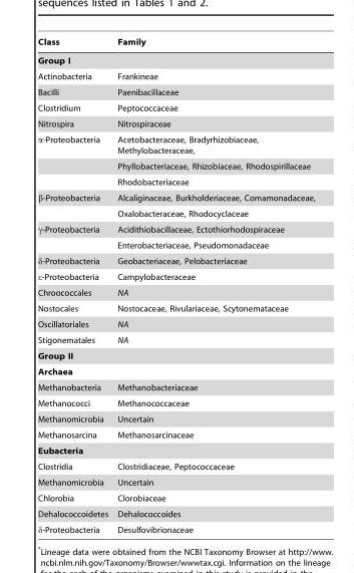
<table><thead><tr><td>Class</td><td>Family</td></tr></thead><tbody><tr><td colspan="2">Group I</td></tr><tr><td>Actinobacteria</td><td>Frankineae</td></tr><tr><td>Bacilli</td><td>Paenibacillaceae</td></tr><tr><td>Clostridium</td><td>Peptococcaceae</td></tr><tr><td>Nitrospira</td><td>Nitrospiraceae</td></tr><tr><td rowspan="3">α-Proteobacteria</td><td>Acetobacteraceae, Bradyrhizobiaceae, Methylobacteraceae,</td></tr><tr><td>Phyllobacteriaceae, Rhizobiaceae, Rhodospirillaceae</td></tr><tr><td>Rhodobacteriaceae</td></tr><tr><td rowspan="2">β-Proteobacteria</td><td>Alcaliginaceae, Burkholderiaceae, Comamonadaceae,</td></tr><tr><td>Oxalobacteraceae, Rhodocyclaceae</td></tr><tr><td rowspan="2">γ-Proteobacteria</td><td>Acidithiobacillaceae, Ectothiorhodospiraceae</td></tr><tr><td>Enterobacteriaceae, Pseudomonadaceae</td></tr><tr><td>δ-Proteobacteria</td><td>Geobacteriaceae, Pelobacteriaceae</td></tr><tr><td>ε-Proteobacteria</td><td>Campylobacteraceae</td></tr><tr><td>Chroococcales</td><td>NA</td></tr><tr><td>Nostocales</td><td>Nostocaceae, Rivulariaceae, Scytonemataceae</td></tr><tr><td>Oscillatoriales</td><td>NA</td></tr><tr><td>Stigonematales</td><td>NA</td></tr><tr><td colspan="2">Group II</td></tr><tr><td colspan="2">Archaea</td></tr><tr><td>Methanobacteria</td><td>Methanobacteriaceae</td></tr><tr><td>Methanococci</td><td>Methanococcaceae</td></tr><tr><td>Methanomicrobia</td><td>Uncertain</td></tr><tr><td>Methanosarcina</td><td>Methanosarcinaceae</td></tr><tr><td colspan="2">Eubacteria</td></tr><tr><td>Clostridia</td><td>Clostridiaceae, Peptococcaceae</td></tr><tr><td>Methanomicrobia</td><td>Uncertain</td></tr><tr><td>Chlorobia</td><td>Clorobiaceae</td></tr><tr><td>Dehalococcoidetes</td><td>Dehalococcoides</td></tr><tr><td>δ-Proteobacteria</td><td>Desulfovibrionaceae</td></tr></tbody></table>